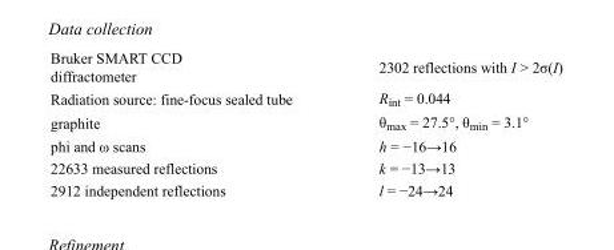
<table><tbody><tr><td>Bruker SMART CCD diffractometer</td><td>2302 reflections with I &gt; 2σ(I)</td></tr><tr><td>Radiation source: fine-focus sealed tube</td><td>R<sub>int</sub> = 0.044</td></tr><tr><td>graphite</td><td>θ<sub>max</sub> = 27.5°, θ<sub>min</sub> = 3.1°</td></tr><tr><td>phi and ω scans</td><td>h = −16→16</td></tr><tr><td>22633 measured reflections</td><td>k = −13→13</td></tr><tr><td>2912 independent reflections</td><td>l = −24→24</td></tr></tbody></table>